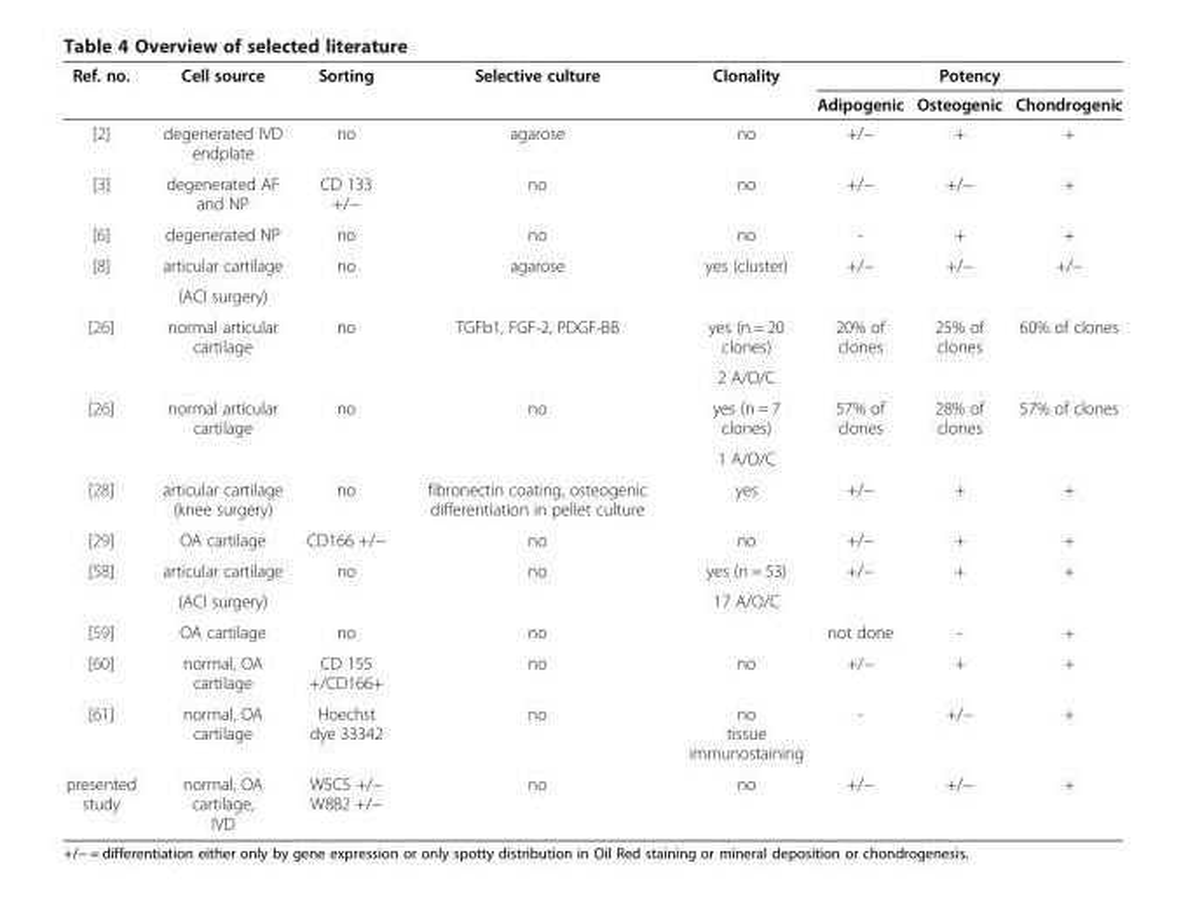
<table><thead><tr><td rowspan="2">Ref. no.</td><td rowspan="2">Cell source</td><td rowspan="2">Sorting</td><td rowspan="2">Selective culture</td><td rowspan="2">Clonality</td><td colspan="3">Potency</td></tr><tr><td>Adipogenic</td><td>Osteogenic</td><td>Chondrogenic</td></tr></thead><tbody><tr><td>[2]</td><td>degenerated IVD endplate</td><td>no</td><td>agarose</td><td>no</td><td>+/−</td><td>+</td><td>+</td></tr><tr><td>[3]</td><td>degenerated AF and NP</td><td>CD 133 +/−</td><td>no</td><td>no</td><td>+/−</td><td>+/−</td><td>+</td></tr><tr><td>[6]</td><td>degenerated NP</td><td>no</td><td>no</td><td>no</td><td>-</td><td>+</td><td>+</td></tr><tr><td rowspan="2">[8]</td><td>articular cartilage</td><td>no</td><td>agarose</td><td>yes (cluster)</td><td>+/−</td><td>+/−</td><td>+/−</td></tr><tr><td>(ACI surgery)</td><td></td><td></td><td></td><td></td><td></td><td></td></tr><tr><td rowspan="2">[26]</td><td>normal articular cartilage</td><td>no</td><td>TGFb1, FGF-2, PDGF-BB</td><td>yes (n = 20 clones)</td><td>20% of clones</td><td>25% of clones</td><td>60% of clones</td></tr><tr><td></td><td></td><td></td><td>2 A/O/C</td><td></td><td></td><td></td></tr><tr><td rowspan="2">[26]</td><td>normal articular cartilage</td><td>no</td><td>no</td><td>yes (n = 7 clones)</td><td>57% of clones</td><td>28% of clones</td><td>57% of clones</td></tr><tr><td></td><td></td><td></td><td>1 A/O/C</td><td></td><td></td><td></td></tr><tr><td>[28]</td><td>articular cartilage (knee surgery)</td><td>no</td><td>fibronectin coating, osteogenic differentiation in pellet culture</td><td>yes</td><td>+/−</td><td>+</td><td>+</td></tr><tr><td>[29]</td><td>OA cartilage</td><td>CD166 +/−</td><td>no</td><td>no</td><td>+/−</td><td>+</td><td>+</td></tr><tr><td rowspan="2">[58]</td><td>articular cartilage</td><td>no</td><td>no</td><td>yes (n = 53)</td><td>+/−</td><td>+</td><td>+</td></tr><tr><td>(ACI surgery)</td><td></td><td></td><td>17 A/O/C</td><td></td><td></td><td></td></tr><tr><td>[59]</td><td>OA cartilage</td><td>no</td><td>no</td><td></td><td>not done</td><td>-</td><td>+</td></tr><tr><td>[60]</td><td>normal, OA cartilage</td><td>CD 155 +/CD166+</td><td>no</td><td>no</td><td>+/−</td><td>+</td><td>+</td></tr><tr><td>[61]</td><td>normal, OA cartilage</td><td>Hoechst dye 33342</td><td>no</td><td>no tissue immunostaining</td><td>-</td><td>+/−</td><td>+</td></tr><tr><td>presented study</td><td>normal, OA cartilage, IVD</td><td>W5C5 +/− W8B2 +/−</td><td>no</td><td>no</td><td>+/−</td><td>+/−</td><td>+</td></tr></tbody></table>